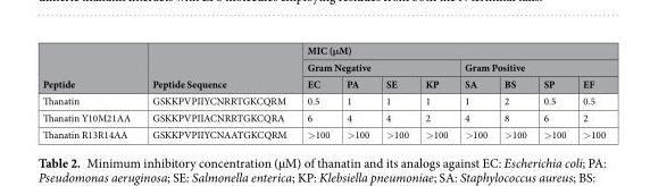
<table><thead><tr><td rowspan="3">Peptide</td><td rowspan="3">Peptide Sequence</td><td colspan="8">MIC (μM)</td></tr><tr><td colspan="4">Gram Negative</td><td colspan="4">Gram Positive</td></tr><tr><td>EC</td><td>PA</td><td>SE</td><td>KP</td><td>SA</td><td>BS</td><td>SP</td><td>EF</td></tr></thead><tbody><tr><td>Thanatin</td><td>GSKKPVPIIYCNRRTGKCQRM</td><td>0.5</td><td>1</td><td>1</td><td>1</td><td>1</td><td>2</td><td>0.5</td><td>0.5</td></tr><tr><td>Thanatin Y10M21AA</td><td>GSKKPVPIIACNRRTGKCQRA</td><td>6</td><td>4</td><td>4</td><td>2</td><td>4</td><td>8</td><td>6</td><td>2</td></tr><tr><td>Thanatin R13R14AA</td><td>GSKKPVPIIYCNAATGKCQRM</td><td>&gt;100</td><td>&gt;100</td><td>&gt;100</td><td>&gt;100</td><td>&gt;100</td><td>&gt;100</td><td>&gt;100</td><td>&gt;100</td></tr></tbody></table>